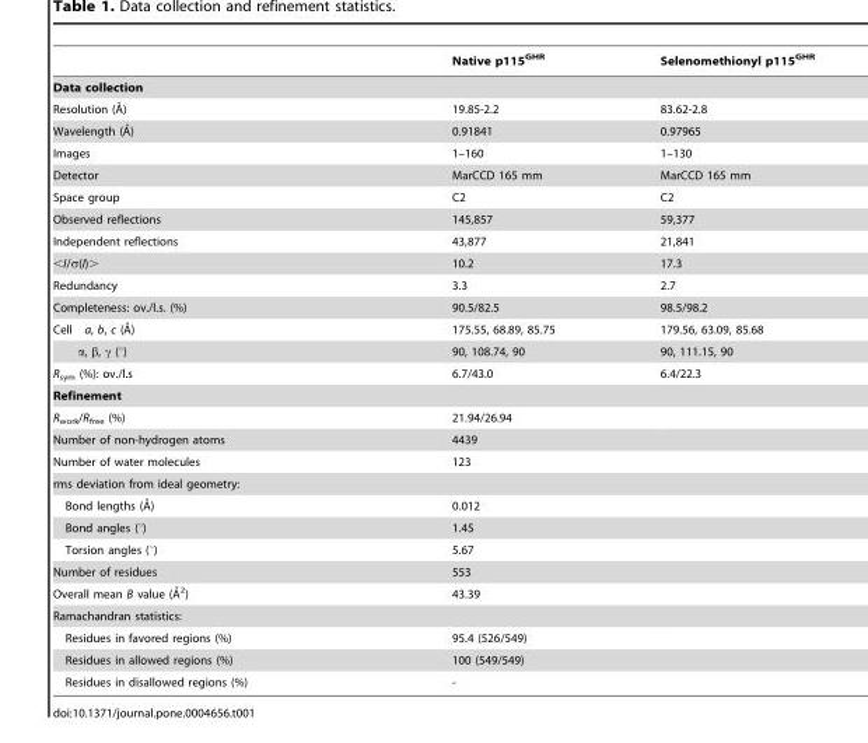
<table><thead><tr><td></td><td>Native p115<sup>GHR</sup></td><td>Selenomethionyl p115<sup>GHR</sup></td></tr></thead><tbody><tr><td colspan="3">Data collection</td></tr><tr><td>Resolution (A˚)</td><td>19.85-2.2</td><td>83.62-2.8</td></tr><tr><td>Wavelength (A˚)</td><td>0.91841</td><td>0.97965</td></tr><tr><td>Images</td><td>1–160</td><td>1–130</td></tr><tr><td>Detector</td><td>MarCCD 165 mm</td><td>MarCCD 165 mm</td></tr><tr><td>Space group</td><td>C2</td><td>C2</td></tr><tr><td>Observed reflections</td><td>145,857</td><td>59,377</td></tr><tr><td>Independent reflections</td><td>43,877</td><td>21,841</td></tr><tr><td>&lt;I/σ(I)&gt;</td><td>10.2</td><td>17.3</td></tr><tr><td>Redundancy</td><td>3.3</td><td>2.7</td></tr><tr><td>Completeness: ov./l.s. (%)</td><td>90.5/82.5</td><td>98.5/98.2</td></tr><tr><td>Cell a, b, c (A˚)</td><td>175.55, 68.89, 85.75</td><td>179.56, 63.09, 85.68</td></tr><tr><td>α, β, γ (°)</td><td>90, 108.74, 90</td><td>90, 111.15, 90</td></tr><tr><td>R<sub>sym</sub> (%): ov./l.s</td><td>6.7/43.0</td><td>6.4/22.3</td></tr><tr><td colspan="3">Refinement</td></tr><tr><td>R<sub>work</sub>/R<sub>free</sub> (%)</td><td>21.94/26.94</td><td></td></tr><tr><td>Number of non-hydrogen atoms</td><td>4439</td><td></td></tr><tr><td>Number of water molecules</td><td>123</td><td></td></tr><tr><td colspan="3">rms deviation from ideal geometry:</td></tr><tr><td>Bond lengths (A˚)</td><td>0.012</td><td></td></tr><tr><td>Bond angles (°)</td><td>1.45</td><td></td></tr><tr><td>Torsion angles (°)</td><td>5.67</td><td></td></tr><tr><td>Number of residues</td><td>553</td><td></td></tr><tr><td>Overall mean B value (A˚2)</td><td>43.39</td><td></td></tr><tr><td colspan="3">Ramachandran statistics:</td></tr><tr><td>Residues in favored regions (%)</td><td>95.4 (526/549)</td><td></td></tr><tr><td>Residues in allowed regions (%)</td><td>100 (549/549)</td><td></td></tr><tr><td>Residues in disallowed regions (%)</td><td>-</td><td></td></tr></tbody></table>